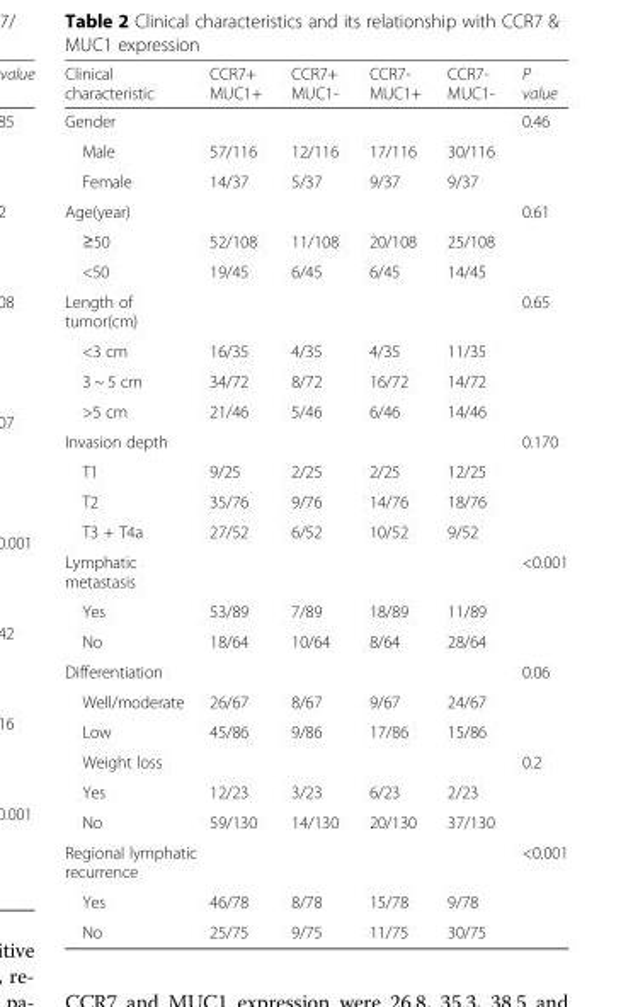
<table><thead><tr><td>Clinical characteristic</td><td>CCR7+ MUC1+</td><td>CCR7+ MUC1-</td><td>CCR7- MUC1+</td><td>CCR7- MUC1-</td><td>P value</td></tr></thead><tbody><tr><td>Gender</td><td></td><td></td><td></td><td></td><td>0.46</td></tr><tr><td>Male</td><td>57/116</td><td>12/116</td><td>17/116</td><td>30/116</td><td></td></tr><tr><td>Female</td><td>14/37</td><td>5/37</td><td>9/37</td><td>9/37</td><td></td></tr><tr><td>Age(year)</td><td></td><td></td><td></td><td></td><td>0.61</td></tr><tr><td>≥50</td><td>52/108</td><td>11/108</td><td>20/108</td><td>25/108</td><td></td></tr><tr><td>&lt;50</td><td>19/45</td><td>6/45</td><td>6/45</td><td>14/45</td><td></td></tr><tr><td>Length of tumor(cm)</td><td></td><td></td><td></td><td></td><td>0.65</td></tr><tr><td>&lt;3 cm</td><td>16/35</td><td>4/35</td><td>4/35</td><td>11/35</td><td></td></tr><tr><td>3 ~ 5 cm</td><td>34/72</td><td>8/72</td><td>16/72</td><td>14/72</td><td></td></tr><tr><td>&gt;5 cm</td><td>21/46</td><td>5/46</td><td>6/46</td><td>14/46</td><td></td></tr><tr><td>Invasion depth</td><td></td><td></td><td></td><td></td><td>0.170</td></tr><tr><td>T1</td><td>9/25</td><td>2/25</td><td>2/25</td><td>12/25</td><td></td></tr><tr><td>T2</td><td>35/76</td><td>9/76</td><td>14/76</td><td>18/76</td><td></td></tr><tr><td>T3 + T4a</td><td>27/52</td><td>6/52</td><td>10/52</td><td>9/52</td><td></td></tr><tr><td>Lymphatic metastasis</td><td></td><td></td><td></td><td></td><td>&lt;0.001</td></tr><tr><td>Yes</td><td>53/89</td><td>7/89</td><td>18/89</td><td>11/89</td><td></td></tr><tr><td>No</td><td>18/64</td><td>10/64</td><td>8/64</td><td>28/64</td><td></td></tr><tr><td>Differentiation</td><td></td><td></td><td></td><td></td><td>0.06</td></tr><tr><td>Well/moderate</td><td>26/67</td><td>8/67</td><td>9/67</td><td>24/67</td><td></td></tr><tr><td>Low</td><td>45/86</td><td>9/86</td><td>17/86</td><td>15/86</td><td></td></tr><tr><td>Weight loss</td><td></td><td></td><td></td><td></td><td>0.2</td></tr><tr><td>Yes</td><td>12/23</td><td>3/23</td><td>6/23</td><td>2/23</td><td></td></tr><tr><td>No</td><td>59/130</td><td>14/130</td><td>20/130</td><td>37/130</td><td></td></tr><tr><td>Regional lymphatic recurrence</td><td></td><td></td><td></td><td></td><td>&lt;0.001</td></tr><tr><td>Yes</td><td>46/78</td><td>8/78</td><td>15/78</td><td>9/78</td><td></td></tr><tr><td>No</td><td>25/75</td><td>9/75</td><td>11/75</td><td>30/75</td><td></td></tr></tbody></table>